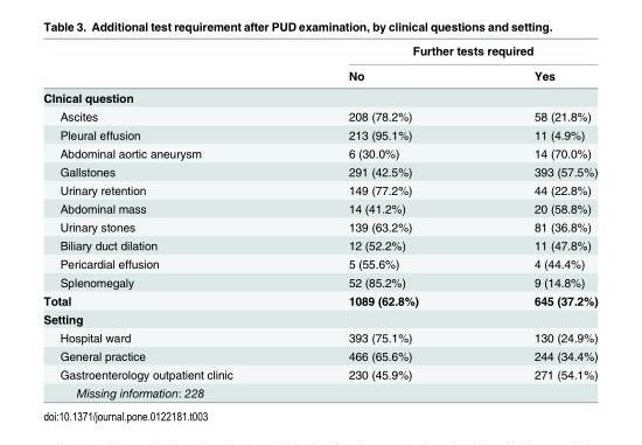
<table><thead><tr><td rowspan="2"></td><td colspan="2">Further tests required</td></tr><tr><td>No</td><td>Yes</td></tr></thead><tbody><tr><td colspan="3">Clnical question</td></tr><tr><td>Ascites</td><td>208 (78.2%)</td><td>58 (21.8%)</td></tr><tr><td>Pleural effusion</td><td>213 (95.1%)</td><td>11 (4.9%)</td></tr><tr><td>Abdominal aortic aneurysm</td><td>6 (30.0%)</td><td>14 (70.0%)</td></tr><tr><td>Gallstones</td><td>291 (42.5%)</td><td>393 (57.5%)</td></tr><tr><td>Urinary retention</td><td>149 (77.2%)</td><td>44 (22.8%)</td></tr><tr><td>Abdominal mass</td><td>14 (41.2%)</td><td>20 (58.8%)</td></tr><tr><td>Urinary stones</td><td>139 (63.2%)</td><td>81 (36.8%)</td></tr><tr><td>Biliary duct dilation</td><td>12 (52.2%)</td><td>11 (47.8%)</td></tr><tr><td>Pericardial effusion</td><td>5 (55.6%)</td><td>4 (44.4%)</td></tr><tr><td>Splenomegaly</td><td>52 (85.2%)</td><td>9 (14.8%)</td></tr><tr><td>Total</td><td>1089 (62.8%)</td><td>645 (37.2%)</td></tr><tr><td colspan="3">Setting</td></tr><tr><td>Hospital ward</td><td>393 (75.1%)</td><td>130 (24.9%)</td></tr><tr><td>General practice</td><td>466 (65.6%)</td><td>244 (34.4%)</td></tr><tr><td>Gastroenterology outpatient clinic</td><td>230 (45.9%)</td><td>271 (54.1%)</td></tr><tr><td>Missing information: 228</td><td></td><td></td></tr></tbody></table>